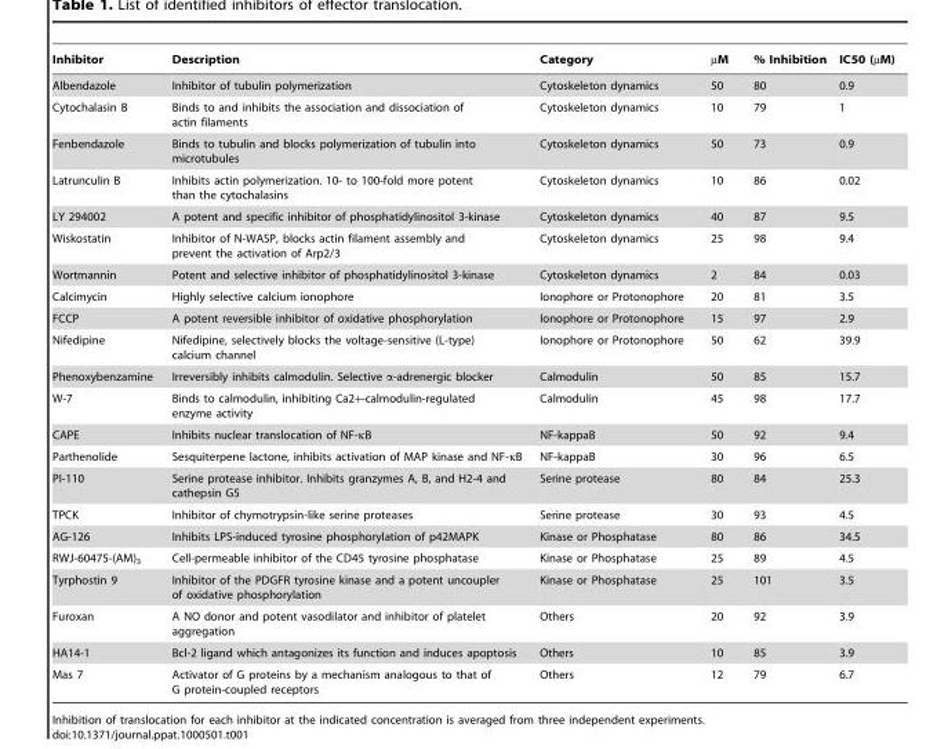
<table><thead><tr><td>Inhibitor</td><td>Description</td><td>Category</td><td>µM</td><td>% Inhibition</td><td>IC50 (µM)</td></tr></thead><tbody><tr><td>Albendazole</td><td>Inhibitor of tubulin polymerization</td><td>Cytoskeleton dynamics</td><td>50</td><td>80</td><td>0.9</td></tr><tr><td>Cytochalasin B</td><td>Binds to and inhibits the association and dissociation of actin filaments</td><td>Cytoskeleton dynamics</td><td>10</td><td>79</td><td>1</td></tr><tr><td>Fenbendazole</td><td>Binds to tubulin and blocks polymerization of tubulin into microtubules</td><td>Cytoskeleton dynamics</td><td>50</td><td>73</td><td>0.9</td></tr><tr><td>Latrunculin B</td><td>Inhibits actin polymerization. 10- to 100-fold more potent than the cytochalasins</td><td>Cytoskeleton dynamics</td><td>10</td><td>86</td><td>0.02</td></tr><tr><td>LY 294002</td><td>A potent and specific inhibitor of phosphatidylinositol 3-kinase</td><td>Cytoskeleton dynamics</td><td>40</td><td>87</td><td>9.5</td></tr><tr><td>Wiskostatin</td><td>Inhibitor of N-WASP, blocks actin filament assembly and prevent the activation of Arp2/3</td><td>Cytoskeleton dynamics</td><td>25</td><td>98</td><td>9.4</td></tr><tr><td>Wortmannin</td><td>Potent and selective inhibitor of phosphatidylinositol 3-kinase</td><td>Cytoskeleton dynamics</td><td>2</td><td>84</td><td>0.03</td></tr><tr><td>Calcimycin</td><td>Highly selective calcium ionophore</td><td>Ionophore or Protonophore</td><td>20</td><td>81</td><td>3.5</td></tr><tr><td>FCCP</td><td>A potent reversible inhibitor of oxidative phosphorylation</td><td>Ionophore or Protonophore</td><td>15</td><td>97</td><td>2.9</td></tr><tr><td>Nifedipine</td><td>Nifedipine, selectively blocks the voltage-sensitive (L-type) calcium channel</td><td>Ionophore or Protonophore</td><td>50</td><td>62</td><td>39.9</td></tr><tr><td>Phenoxybenzamine</td><td>Irreversibly inhibits calmodulin. Selective α-adrenergic blocker</td><td>Calmodulin</td><td>50</td><td>85</td><td>15.7</td></tr><tr><td>W-7</td><td>Binds to calmodulin, inhibiting Ca2+-calmodulin-regulated enzyme activity</td><td>Calmodulin</td><td>45</td><td>98</td><td>17.7</td></tr><tr><td>CAPE</td><td>Inhibits nuclear translocation of NF-κB</td><td>NF-kappaB</td><td>50</td><td>92</td><td>9.4</td></tr><tr><td>Parthenolide</td><td>Sesquiterpene lactone, inhibits activation of MAP kinase and NF-κB</td><td>NF-kappaB</td><td>30</td><td>96</td><td>6.5</td></tr><tr><td>PI-110</td><td>Serine protease inhibitor. Inhibits granzymes A, B, and H2-4 and cathepsin G5</td><td>Serine protease</td><td>80</td><td>84</td><td>25.3</td></tr><tr><td>TPCK</td><td>Inhibitor of chymotrypsin-like serine proteases</td><td>Serine protease</td><td>30</td><td>93</td><td>4.5</td></tr><tr><td>AG-126</td><td>Inhibits LPS-induced tyrosine phosphorylation of p42MAPK</td><td>Kinase or Phosphatase</td><td>80</td><td>86</td><td>34.5</td></tr><tr><td>RWJ-60475-(AM)<sub>3</sub></td><td>Cell-permeable inhibitor of the CD45 tyrosine phosphatase</td><td>Kinase or Phosphatase</td><td>25</td><td>89</td><td>4.5</td></tr><tr><td>Tyrphostin 9</td><td>Inhibitor of the PDGFR tyrosine kinase and a potent uncoupler of oxidative phosphorylation</td><td>Kinase or Phosphatase</td><td>25</td><td>101</td><td>3.5</td></tr><tr><td>Furoxan</td><td>A NO donor and potent vasodilator and inhibitor of platelet aggregation</td><td>Others</td><td>20</td><td>92</td><td>3.9</td></tr><tr><td>HA14-1</td><td>Bcl-2 ligand which antagonizes its function and induces apoptosis</td><td>Others</td><td>10</td><td>85</td><td>3.9</td></tr><tr><td>Mas 7</td><td>Activator of G proteins by a mechanism analogous to that of G protein-coupled receptors</td><td>Others</td><td>12</td><td>79</td><td>6.7</td></tr></tbody></table>